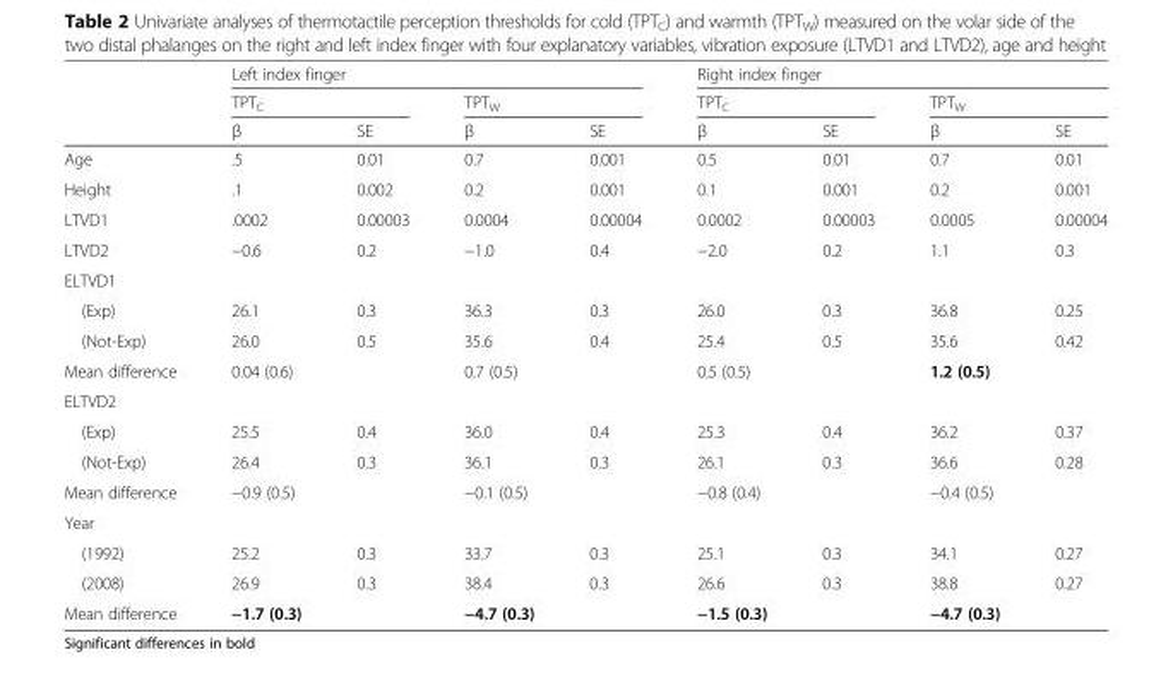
<table><thead><tr><td rowspan="3"></td><td colspan="4">Left index finger</td><td colspan="4">Right index finger</td></tr><tr><td colspan="2">TPT<sub>C</sub></td><td colspan="2">TPT<sub>W</sub></td><td colspan="2">TPT<sub>C</sub></td><td colspan="2">TPT<sub>W</sub></td></tr><tr><td>β</td><td>SE</td><td>β</td><td>SE</td><td>β</td><td>SE</td><td>β</td><td>SE</td></tr></thead><tbody><tr><td>Age</td><td>.5</td><td>0.01</td><td>0.7</td><td>0.001</td><td>0.5</td><td>0.01</td><td>0.7</td><td>0.01</td></tr><tr><td>Height</td><td>.1</td><td>0.002</td><td>0.2</td><td>0.001</td><td>0.1</td><td>0.001</td><td>0.2</td><td>0.001</td></tr><tr><td>LTVD1</td><td>.0002</td><td>0.00003</td><td>0.0004</td><td>0.00004</td><td>0.0002</td><td>0.00003</td><td>0.0005</td><td>0.00004</td></tr><tr><td>LTVD2</td><td>−0.6</td><td>0.2</td><td>−1.0</td><td>0.4</td><td>−2.0</td><td>0.2</td><td>1.1</td><td>0.3</td></tr><tr><td colspan="9">ELTVD1</td></tr><tr><td>(Exp)</td><td>26.1</td><td>0.3</td><td>36.3</td><td>0.3</td><td>26.0</td><td>0.3</td><td>36.8</td><td>0.25</td></tr><tr><td>(Not-Exp)</td><td>26.0</td><td>0.5</td><td>35.6</td><td>0.4</td><td>25.4</td><td>0.5</td><td>35.6</td><td>0.42</td></tr><tr><td>Mean difference</td><td>0.04 (0.6)</td><td></td><td>0.7 (0.5)</td><td></td><td>0.5 (0.5)</td><td></td><td>1.2 (0.5)</td><td></td></tr><tr><td colspan="9">ELTVD2</td></tr><tr><td>(Exp)</td><td>25.5</td><td>0.4</td><td>36.0</td><td>0.4</td><td>25.3</td><td>0.4</td><td>36.2</td><td>0.37</td></tr><tr><td>(Not-Exp)</td><td>26.4</td><td>0.3</td><td>36.1</td><td>0.3</td><td>26.1</td><td>0.3</td><td>36.6</td><td>0.28</td></tr><tr><td>Mean difference</td><td>−0.9 (0.5)</td><td></td><td>−0.1 (0.5)</td><td></td><td>−0.8 (0.4)</td><td></td><td>−0.4 (0.5)</td><td></td></tr><tr><td colspan="9">Year</td></tr><tr><td>(1992)</td><td>25.2</td><td>0.3</td><td>33.7</td><td>0.3</td><td>25.1</td><td>0.3</td><td>34.1</td><td>0.27</td></tr><tr><td>(2008)</td><td>26.9</td><td>0.3</td><td>38.4</td><td>0.3</td><td>26.6</td><td>0.3</td><td>38.8</td><td>0.27</td></tr><tr><td>Mean difference</td><td>−1.7 (0.3)</td><td></td><td>−4.7 (0.3)</td><td></td><td>−1.5 (0.3)</td><td></td><td>−4.7 (0.3)</td><td></td></tr></tbody></table>